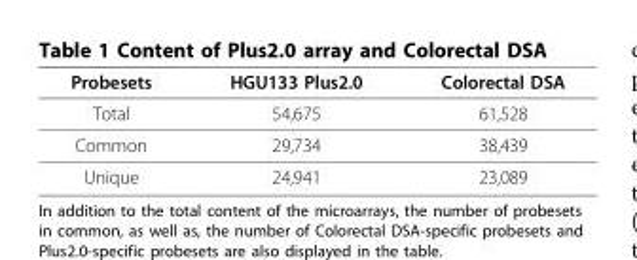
<table><thead><tr><td>Probesets</td><td>HGU133 Plus2.0</td><td>Colorectal DSA</td></tr></thead><tbody><tr><td>Total</td><td>54,675</td><td>61,528</td></tr><tr><td>Common</td><td>29,734</td><td>38,439</td></tr><tr><td>Unique</td><td>24,941</td><td>23,089</td></tr></tbody></table>